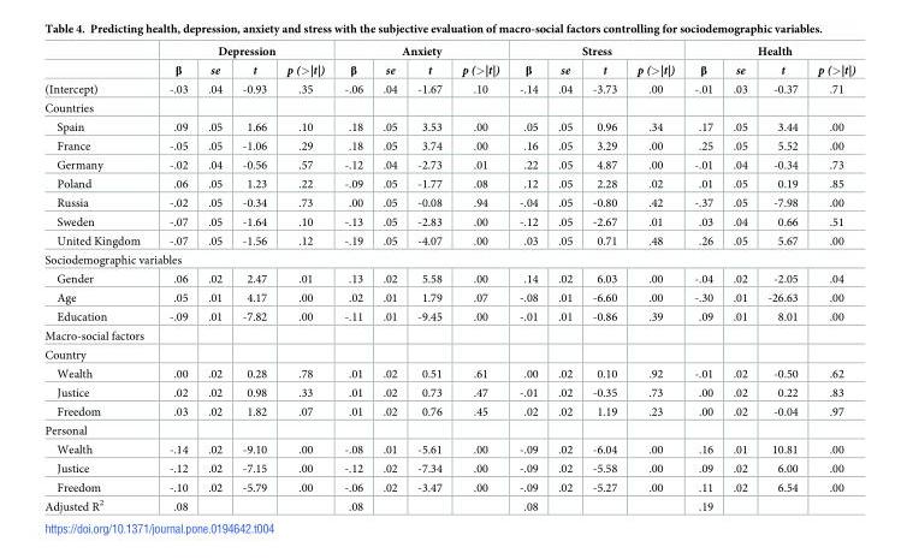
<table><thead><tr><td rowspan="2"></td><td colspan="4">Depression</td><td colspan="4">Anxiety</td><td colspan="4">Stress</td><td colspan="4">Health</td></tr><tr><td>β</td><td>se</td><td>t</td><td>p (&gt;|t|)</td><td>β</td><td>se</td><td>t</td><td>p (&gt;|t|)</td><td>β</td><td>se</td><td>t</td><td>p (&gt;|t|)</td><td>β</td><td>se</td><td>t</td><td>p (&gt;|t|)</td></tr></thead><tbody><tr><td>(Intercept)</td><td>-.03</td><td>.04</td><td>-0.93</td><td>.35</td><td>-.06</td><td>.04</td><td>-1.67</td><td>.10</td><td>-.14</td><td>.04</td><td>-3.73</td><td>.00</td><td>-.01</td><td>.03</td><td>-0.37</td><td>.71</td></tr><tr><td colspan="17">Countries</td></tr><tr><td>Spain</td><td>.09</td><td>.05</td><td>1.66</td><td>.10</td><td>.18</td><td>.05</td><td>3.53</td><td>.00</td><td>.05</td><td>.05</td><td>0.96</td><td>.34</td><td>.17</td><td>.05</td><td>3.44</td><td>.00</td></tr><tr><td>France</td><td>-.05</td><td>.05</td><td>-1.06</td><td>.29</td><td>.18</td><td>.05</td><td>3.74</td><td>.00</td><td>.16</td><td>.05</td><td>3.29</td><td>.00</td><td>.25</td><td>.05</td><td>5.52</td><td>.00</td></tr><tr><td>Germany</td><td>-.02</td><td>.04</td><td>-0.56</td><td>.57</td><td>-.12</td><td>.04</td><td>-2.73</td><td>.01</td><td>.22</td><td>.05</td><td>4.87</td><td>.00</td><td>-.01</td><td>.04</td><td>-0.34</td><td>.73</td></tr><tr><td>Poland</td><td>.06</td><td>.05</td><td>1.23</td><td>.22</td><td>-.09</td><td>.05</td><td>-1.77</td><td>.08</td><td>.12</td><td>.05</td><td>2.28</td><td>.02</td><td>.01</td><td>.05</td><td>0.19</td><td>.85</td></tr><tr><td>Russia</td><td>-.02</td><td>.05</td><td>-0.34</td><td>.73</td><td>.00</td><td>.05</td><td>-0.08</td><td>.94</td><td>-.04</td><td>.05</td><td>-0.80</td><td>.42</td><td>-.37</td><td>.05</td><td>-7.98</td><td>.00</td></tr><tr><td>Sweden</td><td>-.07</td><td>.05</td><td>-1.64</td><td>.10</td><td>-.13</td><td>.05</td><td>-2.83</td><td>.00</td><td>-.12</td><td>.05</td><td>-2.67</td><td>.01</td><td>.03</td><td>.04</td><td>0.66</td><td>.51</td></tr><tr><td>United Kingdom</td><td>-.07</td><td>.05</td><td>-1.56</td><td>.12</td><td>-.19</td><td>.05</td><td>-4.07</td><td>.00</td><td>.03</td><td>.05</td><td>0.71</td><td>.48</td><td>.26</td><td>.05</td><td>5.67</td><td>.00</td></tr><tr><td colspan="17">Sociodemographic variables</td></tr><tr><td>Gender</td><td>.06</td><td>.02</td><td>2.47</td><td>.01</td><td>.13</td><td>.02</td><td>5.58</td><td>.00</td><td>.14</td><td>.02</td><td>6.03</td><td>.00</td><td>-.04</td><td>.02</td><td>-2.05</td><td>.04</td></tr><tr><td>Age</td><td>.05</td><td>.01</td><td>4.17</td><td>.00</td><td>.02</td><td>.01</td><td>1.79</td><td>.07</td><td>-.08</td><td>.01</td><td>-6.60</td><td>.00</td><td>-.30</td><td>.01</td><td>-26.63</td><td>.00</td></tr><tr><td>Education</td><td>-.09</td><td>.01</td><td>-7.82</td><td>.00</td><td>-.11</td><td>.01</td><td>-9.45</td><td>.00</td><td>-.01</td><td>.01</td><td>-0.86</td><td>.39</td><td>.09</td><td>.01</td><td>8.01</td><td>.00</td></tr><tr><td colspan="17">Macro-social factors</td></tr><tr><td colspan="17">Country</td></tr><tr><td>Wealth</td><td>.00</td><td>.02</td><td>0.28</td><td>.78</td><td>.01</td><td>.02</td><td>0.51</td><td>.61</td><td>.00</td><td>.02</td><td>0.10</td><td>.92</td><td>-.01</td><td>.02</td><td>-0.50</td><td>.62</td></tr><tr><td>Justice</td><td>.02</td><td>.02</td><td>0.98</td><td>.33</td><td>.01</td><td>.02</td><td>0.73</td><td>.47</td><td>-.01</td><td>.02</td><td>-0.35</td><td>.73</td><td>.00</td><td>.02</td><td>0.22</td><td>.83</td></tr><tr><td>Freedom</td><td>.03</td><td>.02</td><td>1.82</td><td>.07</td><td>.01</td><td>.02</td><td>0.76</td><td>.45</td><td>.02</td><td>.02</td><td>1.19</td><td>.23</td><td>.00</td><td>.02</td><td>-0.04</td><td>.97</td></tr><tr><td colspan="17">Personal</td></tr><tr><td>Wealth</td><td>-.14</td><td>.02</td><td>-9.10</td><td>.00</td><td>-.08</td><td>.01</td><td>-5.61</td><td>.00</td><td>-.09</td><td>.02</td><td>-6.04</td><td>.00</td><td>.16</td><td>.01</td><td>10.81</td><td>.00</td></tr><tr><td>Justice</td><td>-.12</td><td>.02</td><td>-7.15</td><td>.00</td><td>-.12</td><td>.02</td><td>-7.34</td><td>.00</td><td>-.09</td><td>.02</td><td>-5.58</td><td>.00</td><td>.09</td><td>.02</td><td>6.00</td><td>.00</td></tr><tr><td>Freedom</td><td>-.10</td><td>.02</td><td>-5.79</td><td>.00</td><td>-.06</td><td>.02</td><td>-3.47</td><td>.00</td><td>-.09</td><td>.02</td><td>-5.27</td><td>.00</td><td>.11</td><td>.02</td><td>6.54</td><td>.00</td></tr><tr><td>Adjusted R<sup>2</sup></td><td>.08</td><td></td><td></td><td></td><td>.08</td><td></td><td></td><td></td><td>.08</td><td></td><td></td><td></td><td>.19</td><td></td><td></td><td></td></tr></tbody></table>